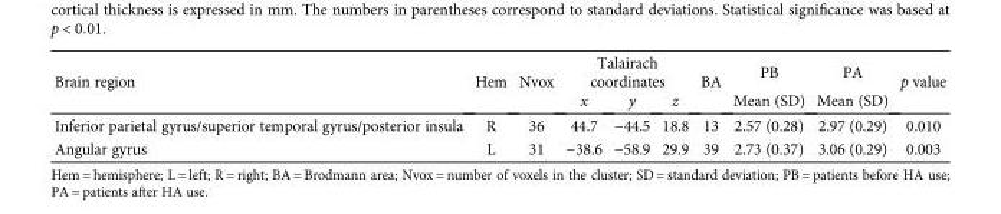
<table><thead><tr><td rowspan="2">Brain region</td><td rowspan="2">Hem</td><td rowspan="2">Nvox</td><td colspan="3">Talairach coordinates</td><td rowspan="2">BA</td><td rowspan="2">PB Mean (SD)</td><td rowspan="2">PA Mean (SD)</td><td rowspan="2">p value</td></tr><tr><td>x</td><td>y</td><td>z</td></tr></thead><tbody><tr><td>Inferior parietal gyrus/superior temporal gyrus/posterior insula</td><td>R</td><td>36</td><td>44.7</td><td>−44.5</td><td>18.8</td><td>13</td><td>2.57 (0.28)</td><td>2.97 (0.29)</td><td>0.010</td></tr><tr><td>Angular gyrus</td><td>L</td><td>31</td><td>−38.6</td><td>−58.9</td><td>29.9</td><td>39</td><td>2.73 (0.37)</td><td>3.06 (0.29)</td><td>0.003</td></tr></tbody></table>